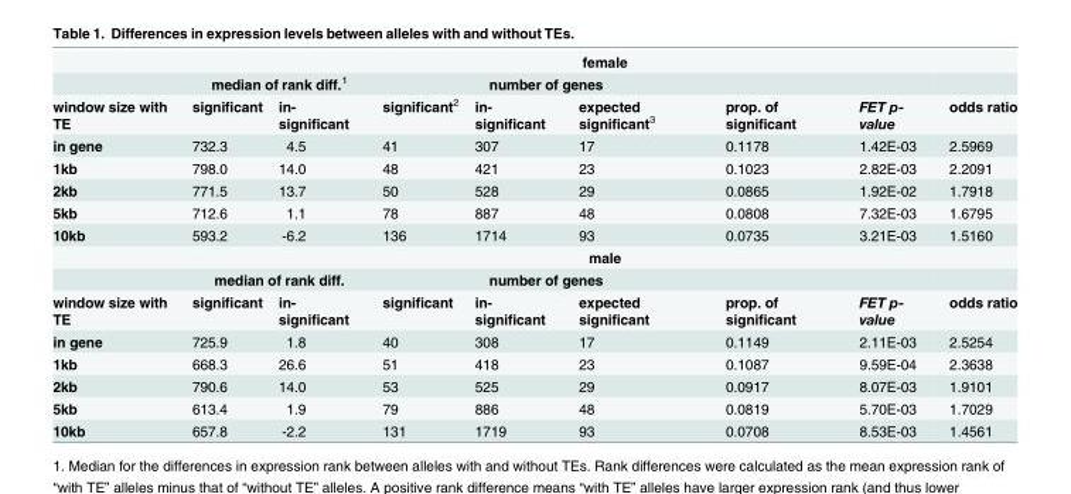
<table><thead><tr><td rowspan="3">window size with TE</td><td colspan="8">female</td></tr><tr><td colspan="2">median of rank diff.<sup>1</sup></td><td colspan="3">number of genes</td><td rowspan="2">prop. of significant</td><td rowspan="2">FET p- value</td><td rowspan="2">odds ratio</td></tr><tr><td>significant</td><td>in- significant</td><td>significant<sup>2</sup></td><td>in- significant</td><td>expected significant<sup>3</sup></td></tr></thead><tbody><tr><td>in gene</td><td>732.3</td><td>4.5</td><td>41</td><td>307</td><td>17</td><td>0.1178</td><td>1.42E-03</td><td>2.5969</td></tr><tr><td>1kb</td><td>798.0</td><td>14.0</td><td>48</td><td>421</td><td>23</td><td>0.1023</td><td>2.82E-03</td><td>2.2091</td></tr><tr><td>2kb</td><td>771.5</td><td>13.7</td><td>50</td><td>528</td><td>29</td><td>0.0865</td><td>1.92E-02</td><td>1.7918</td></tr><tr><td>5kb</td><td>712.6</td><td>1.1</td><td>78</td><td>887</td><td>48</td><td>0.0808</td><td>7.32E-03</td><td>1.6795</td></tr><tr><td rowspan="3">10kb</td><td>593.2</td><td>-6.2</td><td>136</td><td>1714</td><td>93</td><td>0.0735</td><td>3.21E-03</td><td>1.5160</td></tr><tr><td colspan="8">male</td></tr><tr><td colspan="2">median of rank diff.</td><td colspan="3">number of genes</td><td></td><td></td><td></td></tr><tr><td>window size with TE</td><td>significant</td><td>in- significant</td><td>significant</td><td>in- significant</td><td>expected significant</td><td>prop. of significant</td><td>FET p- value</td><td>odds ratio</td></tr><tr><td>in gene</td><td>725.9</td><td>1.8</td><td>40</td><td>308</td><td>17</td><td>0.1149</td><td>2.11E-03</td><td>2.5254</td></tr><tr><td>1kb</td><td>668.3</td><td>26.6</td><td>51</td><td>418</td><td>23</td><td>0.1087</td><td>9.59E-04</td><td>2.3638</td></tr><tr><td>2kb</td><td>790.6</td><td>14.0</td><td>53</td><td>525</td><td>29</td><td>0.0917</td><td>8.07E-03</td><td>1.9101</td></tr><tr><td>5kb</td><td>613.4</td><td>1.9</td><td>79</td><td>886</td><td>48</td><td>0.0819</td><td>5.70E-03</td><td>1.7029</td></tr><tr><td>10kb</td><td>657.8</td><td>-2.2</td><td>131</td><td>1719</td><td>93</td><td>0.0708</td><td>8.53E-03</td><td>1.4561</td></tr></tbody></table>